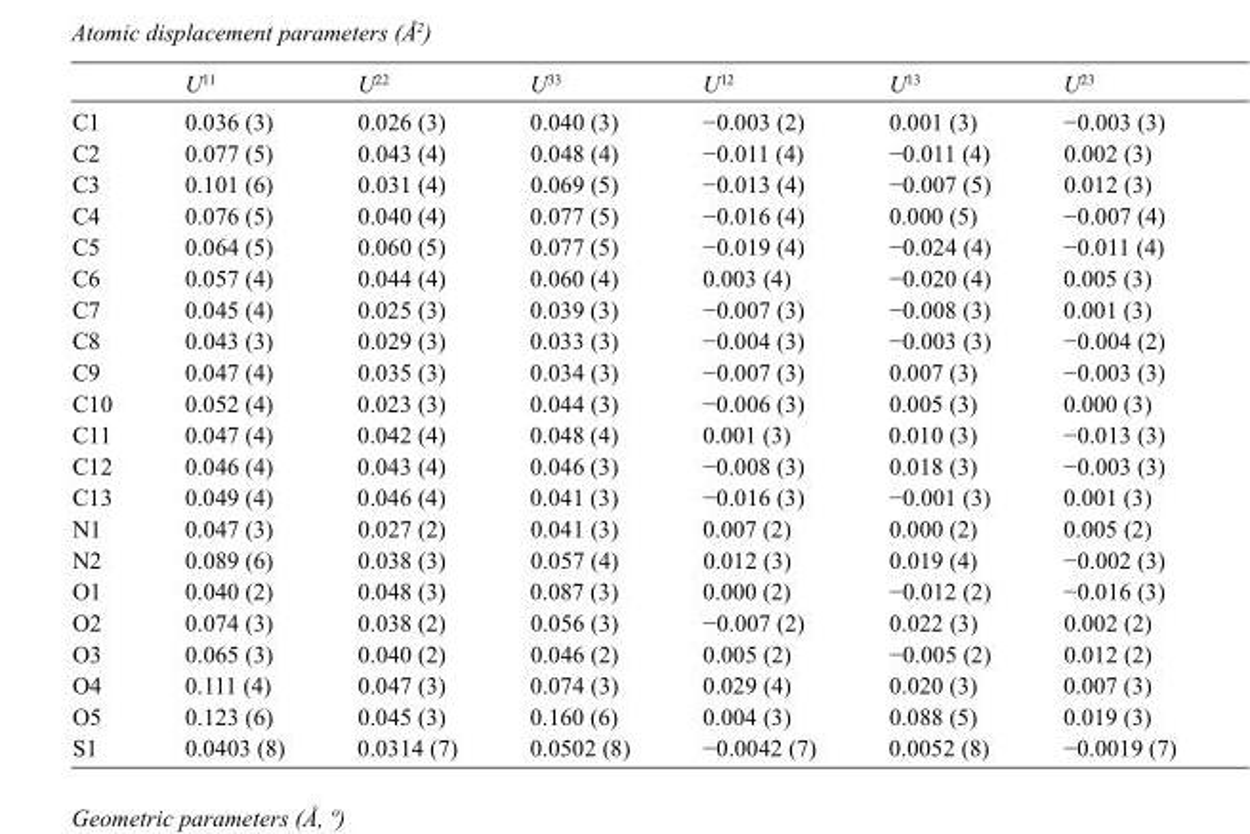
<table><thead><tr><td></td><td>U<sup>11</sup></td><td>U<sup>22</sup></td><td>U<sup>33</sup></td><td>U<sup>12</sup></td><td>U<sup>13</sup></td><td>U<sup>23</sup></td></tr></thead><tbody><tr><td>C1</td><td>0.036 (3)</td><td>0.026 (3)</td><td>0.040 (3)</td><td>−0.003 (2)</td><td>0.001 (3)</td><td>−0.003 (3)</td></tr><tr><td>C2</td><td>0.077 (5)</td><td>0.043 (4)</td><td>0.048 (4)</td><td>−0.011 (4)</td><td>−0.011 (4)</td><td>0.002 (3)</td></tr><tr><td>C3</td><td>0.101 (6)</td><td>0.031 (4)</td><td>0.069 (5)</td><td>−0.013 (4)</td><td>−0.007 (5)</td><td>0.012 (3)</td></tr><tr><td>C4</td><td>0.076 (5)</td><td>0.040 (4)</td><td>0.077 (5)</td><td>−0.016 (4)</td><td>0.000 (5)</td><td>−0.007 (4)</td></tr><tr><td>C5</td><td>0.064 (5)</td><td>0.060 (5)</td><td>0.077 (5)</td><td>−0.019 (4)</td><td>−0.024 (4)</td><td>−0.011 (4)</td></tr><tr><td>C6</td><td>0.057 (4)</td><td>0.044 (4)</td><td>0.060 (4)</td><td>0.003 (4)</td><td>−0.020 (4)</td><td>0.005 (3)</td></tr><tr><td>C7</td><td>0.045 (4)</td><td>0.025 (3)</td><td>0.039 (3)</td><td>−0.007 (3)</td><td>−0.008 (3)</td><td>0.001 (3)</td></tr><tr><td>C8</td><td>0.043 (3)</td><td>0.029 (3)</td><td>0.033 (3)</td><td>−0.004 (3)</td><td>−0.003 (3)</td><td>−0.004 (2)</td></tr><tr><td>C9</td><td>0.047 (4)</td><td>0.035 (3)</td><td>0.034 (3)</td><td>−0.007 (3)</td><td>0.007 (3)</td><td>−0.003 (3)</td></tr><tr><td>C10</td><td>0.052 (4)</td><td>0.023 (3)</td><td>0.044 (3)</td><td>−0.006 (3)</td><td>0.005 (3)</td><td>0.000 (3)</td></tr><tr><td>C11</td><td>0.047 (4)</td><td>0.042 (4)</td><td>0.048 (4)</td><td>0.001 (3)</td><td>0.010 (3)</td><td>−0.013 (3)</td></tr><tr><td>C12</td><td>0.046 (4)</td><td>0.043 (4)</td><td>0.046 (3)</td><td>−0.008 (3)</td><td>0.018 (3)</td><td>−0.003 (3)</td></tr><tr><td>C13</td><td>0.049 (4)</td><td>0.046 (4)</td><td>0.041 (3)</td><td>−0.016 (3)</td><td>−0.001 (3)</td><td>0.001 (3)</td></tr><tr><td>N1</td><td>0.047 (3)</td><td>0.027 (2)</td><td>0.041 (3)</td><td>0.007 (2)</td><td>0.000 (2)</td><td>0.005 (2)</td></tr><tr><td>N2</td><td>0.089 (6)</td><td>0.038 (3)</td><td>0.057 (4)</td><td>0.012 (3)</td><td>0.019 (4)</td><td>−0.002 (3)</td></tr><tr><td>O1</td><td>0.040 (2)</td><td>0.048 (3)</td><td>0.087 (3)</td><td>0.000 (2)</td><td>−0.012 (2)</td><td>−0.016 (3)</td></tr><tr><td>O2</td><td>0.074 (3)</td><td>0.038 (2)</td><td>0.056 (3)</td><td>−0.007 (2)</td><td>0.022 (3)</td><td>0.002 (2)</td></tr><tr><td>O3</td><td>0.065 (3)</td><td>0.040 (2)</td><td>0.046 (2)</td><td>0.005 (2)</td><td>−0.005 (2)</td><td>0.012 (2)</td></tr><tr><td>O4</td><td>0.111 (4)</td><td>0.047 (3)</td><td>0.074 (3)</td><td>0.029 (4)</td><td>0.020 (3)</td><td>0.007 (3)</td></tr><tr><td>O5</td><td>0.123 (6)</td><td>0.045 (3)</td><td>0.160 (6)</td><td>0.004 (3)</td><td>0.088 (5)</td><td>0.019 (3)</td></tr><tr><td>S1</td><td>0.0403 (8)</td><td>0.0314 (7)</td><td>0.0502 (8)</td><td>−0.0042 (7)</td><td>0.0052 (8)</td><td>−0.0019 (7)</td></tr></tbody></table>